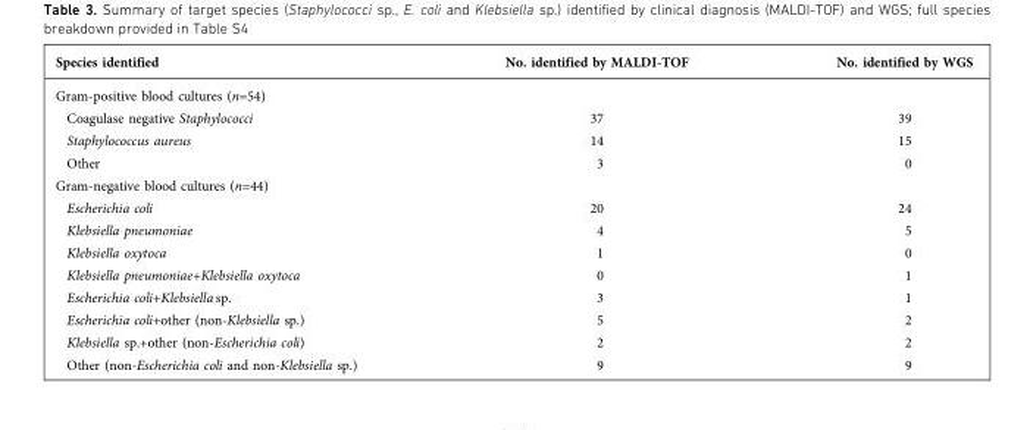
<table><thead><tr><td>Species identified</td><td>No. identified by MALDI-TOF</td><td>No. identified by WGS</td></tr></thead><tbody><tr><td colspan="3">Gram-positive blood cultures (n=54)</td></tr><tr><td>Coagulase negative Staphylococci</td><td>37</td><td>39</td></tr><tr><td>Staphylococcus aureus</td><td>14</td><td>15</td></tr><tr><td>Other</td><td>3</td><td>0</td></tr><tr><td colspan="3">Gram-negative blood cultures (n=44)</td></tr><tr><td>Escherichia coli</td><td>20</td><td>24</td></tr><tr><td>Klebsiella pneumoniae</td><td>4</td><td>5</td></tr><tr><td>Klebsiella oxytoca</td><td>1</td><td>0</td></tr><tr><td>Klebsiella pneumoniae+Klebsiella oxytoca</td><td>0</td><td>1</td></tr><tr><td>Escherichia coli+Klebsiella sp.</td><td>3</td><td>1</td></tr><tr><td>Escherichia coli+other (non-Klebsiella sp.)</td><td>5</td><td>2</td></tr><tr><td>Klebsiella sp.+other (non-Escherichia coli)</td><td>2</td><td>2</td></tr><tr><td>Other (non-Escherichia coli and non-Klebsiella sp.)</td><td>9</td><td>9</td></tr></tbody></table>